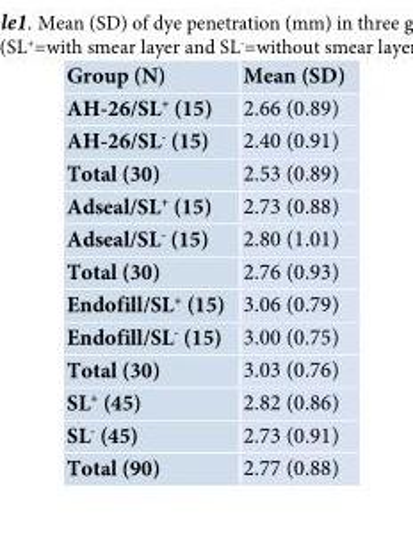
<table><thead><tr><td rowspan="12">Group (N) AH-26/SL+ (15) AH-26/SL- (15) Total (30) Adseal/SL+ (15) Adseal/SL- (15) Total (30) Endofill/SL+ (15) Endofill/SL- (15) Total (30) SL+ (45) SL- (45)</td><td rowspan="12">Mean (SD) 2.66 (0.89) 2.40 (0.91) 2.53 (0.89) 2.73 (0.88) 2.80 (1.01) 2.76 (0.93) 3.06 (0.79) 3.00 (0.75) 3.03 (0.76) 2.82 (0.86) 2.73 (0.91)</td></tr><tr></tr><tr></tr><tr></tr><tr></tr><tr></tr><tr></tr><tr></tr><tr></tr><tr></tr><tr></tr><tr></tr></thead><tbody><tr><td>Total (90)</td><td>2.77 (0.88)</td></tr></tbody></table>